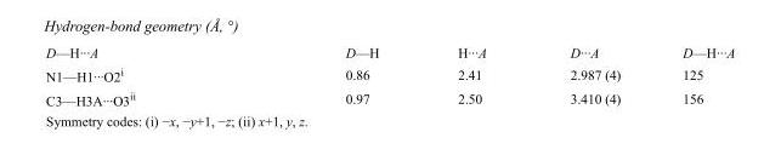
<table><tbody><tr><td>D—H···A</td><td>D—H</td><td>H···A</td><td>D···A</td><td>D—H···A</td></tr><tr><td>N1—H1···O2<sup>i</sup></td><td>0.86</td><td>2.41</td><td>2.987 (4)</td><td>125</td></tr><tr><td>C3—H3A···O3<sup>ii</sup></td><td>0.97</td><td>2.50</td><td>3.410 (4)</td><td>156</td></tr></tbody></table>